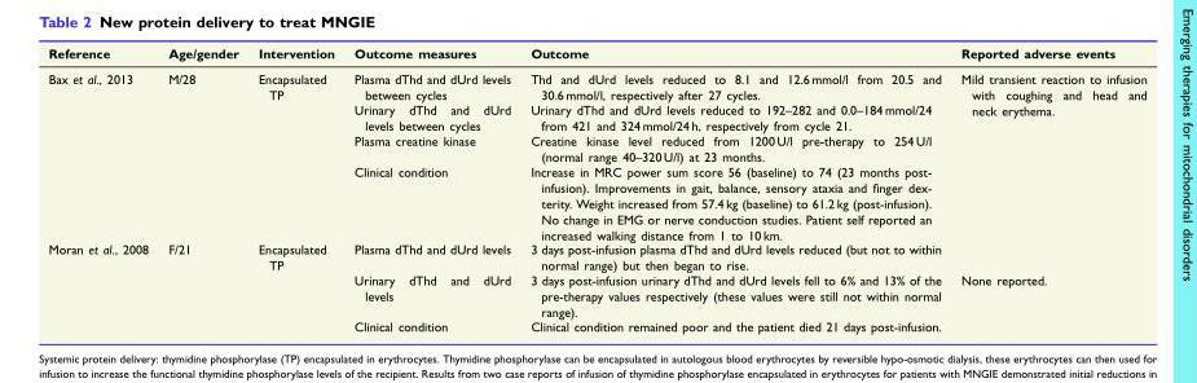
<table><thead><tr><td>Reference</td><td>Age/gender</td><td>Intervention</td><td>Outcome measures</td><td>Outcome</td><td>Reported adverse events</td></tr></thead><tbody><tr><td rowspan="4">Bax et al., 2013</td><td>M/28</td><td>Encapsulated TP</td><td>Plasma dThd and dUrd levels between cycles</td><td>Thd and dUrd levels reduced to 8.1 and 12.6 mmol/l from 20.5 and 30.6 mmol/l, respectively after 27 cycles.</td><td rowspan="4">Mild transient reaction to infusion with coughing and head and neck erythema.</td></tr><tr><td></td><td></td><td>Urinary dThd and dUrd levels between cycles</td><td>Urinary dThd and dUrd levels reduced to 192–282 and 0.0–184 mmol/24 from 421 and 324 mmol/24 h, respectively from cycle 21.</td></tr><tr><td></td><td></td><td>Plasma creatine kinase</td><td>Creatine kinase level reduced from 1200 U/l pre-therapy to 254 U/l (normal range 40–320 U/l) at 23 months.</td></tr><tr><td></td><td></td><td>Clinical condition</td><td>Increase in MRC power sum score 56 (baseline) to 74 (23 months post- infusion). Improvements in gait, balance, sensory ataxia and finger dex- terity. Weight increased from 57.4 kg (baseline) to 61.2 kg (post-infusion). No change in EMG or nerve conduction studies. Patient self reported an increased walking distance from 1 to 10 km.</td></tr><tr><td rowspan="3">Moran et al., 2008</td><td>F/21</td><td>Encapsulated TP</td><td>Plasma dThd and dUrd levels</td><td>3 days post-infusion plasma dThd and dUrd levels reduced (but not to within normal range) but then began to rise.</td><td></td></tr><tr><td></td><td></td><td>Urinary dThd and dUrd levels</td><td>3 days post-infusion urinary dThd and dUrd levels fell to 6% and 13% of the pre-therapy values respectively (these values were still not within normal range).</td><td>None reported.</td></tr><tr><td></td><td></td><td>Clinical condition</td><td>Clinical condition remained poor and the patient died 21 days post-infusion.</td><td></td></tr></tbody></table>